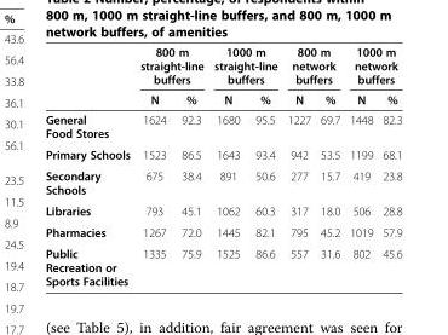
<table><thead><tr><td rowspan="2"></td><td colspan="2">800 m straight-line buffers</td><td colspan="2">1000 m straight-line buffers</td><td colspan="2">800 m network buffers</td><td colspan="2">1000 m network buffers</td></tr><tr><td>N</td><td>%</td><td>N</td><td>%</td><td>N</td><td>%</td><td>N</td><td>%</td></tr></thead><tbody><tr><td>General Food Stores</td><td>1624</td><td>92.3</td><td>1680</td><td>95.5</td><td>1227</td><td>69.7</td><td>1448</td><td>82.3</td></tr><tr><td>Primary Schools</td><td>1523</td><td>86.5</td><td>1643</td><td>93.4</td><td>942</td><td>53.5</td><td>1199</td><td>68.1</td></tr><tr><td>Secondary Schools</td><td>675</td><td>38.4</td><td>891</td><td>50.6</td><td>277</td><td>15.7</td><td>419</td><td>23.8</td></tr><tr><td>Libraries</td><td>793</td><td>45.1</td><td>1062</td><td>60.3</td><td>317</td><td>18.0</td><td>506</td><td>28.8</td></tr><tr><td>Pharmacies</td><td>1267</td><td>72.0</td><td>1445</td><td>82.1</td><td>795</td><td>45.2</td><td>1019</td><td>57.9</td></tr><tr><td>Public Recreation or Sports Facilities</td><td>1335</td><td>75.9</td><td>1525</td><td>86.6</td><td>557</td><td>31.6</td><td>802</td><td>45.6</td></tr></tbody></table>